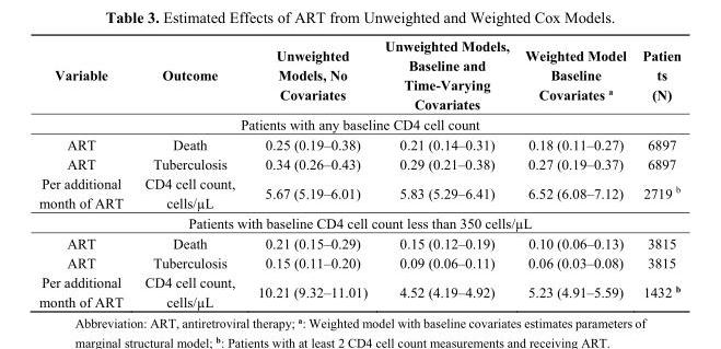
<table><thead><tr><td>Variable</td><td>Outcome</td><td>Unweighted Models, No Covariates</td><td>Unweighted Models, Baseline and Time-Varying Covariates</td><td>Weighted Model Baseline Covariates <sup>a</sup></td><td>Patien ts (N)</td></tr></thead><tbody><tr><td colspan="6">Patients with any baseline CD4 cell count</td></tr><tr><td>ART</td><td>Death</td><td>0.25 (0.19–0.38)</td><td>0.21 (0.14–0.31)</td><td>0.18 (0.11–0.27)</td><td>6897</td></tr><tr><td>ART</td><td>Tuberculosis</td><td>0.34 (0.26–0.43)</td><td>0.29 (0.21–0.38)</td><td>0.27 (0.19–0.37)</td><td>6897</td></tr><tr><td>Per additional month of ART</td><td>CD4 cell count, cells/µL</td><td>5.67 (5.19–6.01)</td><td>5.83 (5.29–6.41)</td><td>6.52 (6.08–7.12)</td><td>2719 <sup>b</sup></td></tr><tr><td colspan="6">Patients with baseline CD4 cell count less than 350 cells/µL</td></tr><tr><td>ART</td><td>Death</td><td>0.21 (0.15–0.29)</td><td>0.15 (0.12–0.19)</td><td>0.10 (0.06–0.13)</td><td>3815</td></tr><tr><td>ART</td><td>Tuberculosis</td><td>0.15 (0.11–0.20)</td><td>0.09 (0.06–0.11)</td><td>0.06 (0.03–0.08)</td><td>3815</td></tr><tr><td>Per additional month of ART</td><td>CD4 cell count, cells/µL</td><td>10.21 (9.32–11.01)</td><td>4.52 (4.19–4.92)</td><td>5.23 (4.91–5.59)</td><td>1432 <sup>b</sup></td></tr></tbody></table>